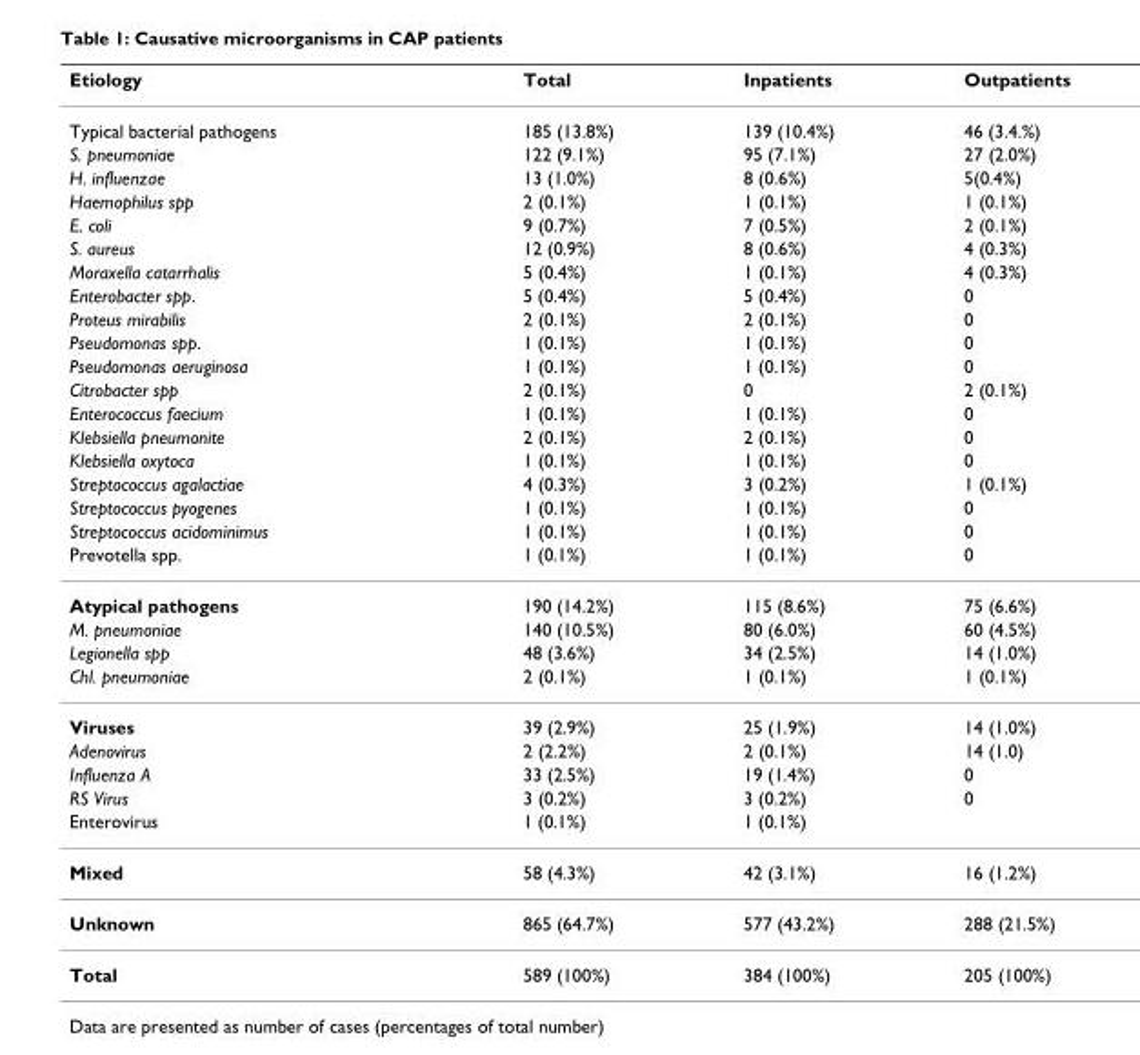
<table><thead><tr><td>Etiology</td><td>Total</td><td>Inpatients</td><td>Outpatients</td></tr></thead><tbody><tr><td>Typical bacterial pathogens</td><td>185 (13.8%)</td><td>139 (10.4%)</td><td>46 (3.4.%)</td></tr><tr><td>S. pneumoniae</td><td>122 (9.1%)</td><td>95 (7.1%)</td><td>27 (2.0%)</td></tr><tr><td>H. influenzae</td><td>13 (1.0%)</td><td>8 (0.6%)</td><td>5(0.4%)</td></tr><tr><td>Haemophilus spp</td><td>2 (0.1%)</td><td>1 (0.1%)</td><td>1 (0.1%)</td></tr><tr><td>E. coli</td><td>9 (0.7%)</td><td>7 (0.5%)</td><td>2 (0.1%)</td></tr><tr><td>S. aureus</td><td>12 (0.9%)</td><td>8 (0.6%)</td><td>4 (0.3%)</td></tr><tr><td>Moraxella catarrhalis</td><td>5 (0.4%)</td><td>1 (0.1%)</td><td>4 (0.3%)</td></tr><tr><td>Enterobacter spp.</td><td>5 (0.4%)</td><td>5 (0.4%)</td><td>0</td></tr><tr><td>Proteus mirabilis</td><td>2 (0.1%)</td><td>2 (0.1%)</td><td>0</td></tr><tr><td>Pseudomonas spp.</td><td>1 (0.1%)</td><td>1 (0.1%)</td><td>0</td></tr><tr><td>Pseudomonas aeruginosa</td><td>1 (0.1%)</td><td>1 (0.1%)</td><td>0</td></tr><tr><td>Citrobacter spp</td><td>2 (0.1%)</td><td>0</td><td>2 (0.1%)</td></tr><tr><td>Enterococcus faecium</td><td>1 (0.1%)</td><td>1 (0.1%)</td><td>0</td></tr><tr><td>Klebsiella pneumonite</td><td>2 (0.1%)</td><td>2 (0.1%)</td><td>0</td></tr><tr><td>Klebsiella oxytoca</td><td>1 (0.1%)</td><td>1 (0.1%)</td><td>0</td></tr><tr><td>Streptococcus agalactiae</td><td>4 (0.3%)</td><td>3 (0.2%)</td><td>1 (0.1%)</td></tr><tr><td>Streptococcus pyogenes</td><td>1 (0.1%)</td><td>1 (0.1%)</td><td>0</td></tr><tr><td>Streptococcus acidominimus</td><td>1 (0.1%)</td><td>1 (0.1%)</td><td>0</td></tr><tr><td>Prevotella spp.</td><td>1 (0.1%)</td><td>1 (0.1%)</td><td>0</td></tr><tr><td>Atypical pathogens</td><td>190 (14.2%)</td><td>115 (8.6%)</td><td>75 (6.6%)</td></tr><tr><td>M. pneumoniae</td><td>140 (10.5%)</td><td>80 (6.0%)</td><td>60 (4.5%)</td></tr><tr><td>Legionella spp</td><td>48 (3.6%)</td><td>34 (2.5%)</td><td>14 (1.0%)</td></tr><tr><td>Chl. pneumoniae</td><td>2 (0.1%)</td><td>1 (0.1%)</td><td>1 (0.1%)</td></tr><tr><td>Viruses</td><td>39 (2.9%)</td><td>25 (1.9%)</td><td>14 (1.0%)</td></tr><tr><td>Adenovirus</td><td>2 (2.2%)</td><td>2 (0.1%)</td><td>14 (1.0)</td></tr><tr><td>Influenza A</td><td>33 (2.5%)</td><td>19 (1.4%)</td><td>0</td></tr><tr><td>RS Virus</td><td>3 (0.2%)</td><td>3 (0.2%)</td><td>0</td></tr><tr><td>Enterovirus</td><td>1 (0.1%)</td><td>1 (0.1%)</td><td></td></tr><tr><td>Mixed</td><td>58 (4.3%)</td><td>42 (3.1%)</td><td>16 (1.2%)</td></tr><tr><td>Unknown</td><td>865 (64.7%)</td><td>577 (43.2%)</td><td>288 (21.5%)</td></tr><tr><td>Total</td><td>589 (100%)</td><td>384 (100%)</td><td>205 (100%)</td></tr></tbody></table>